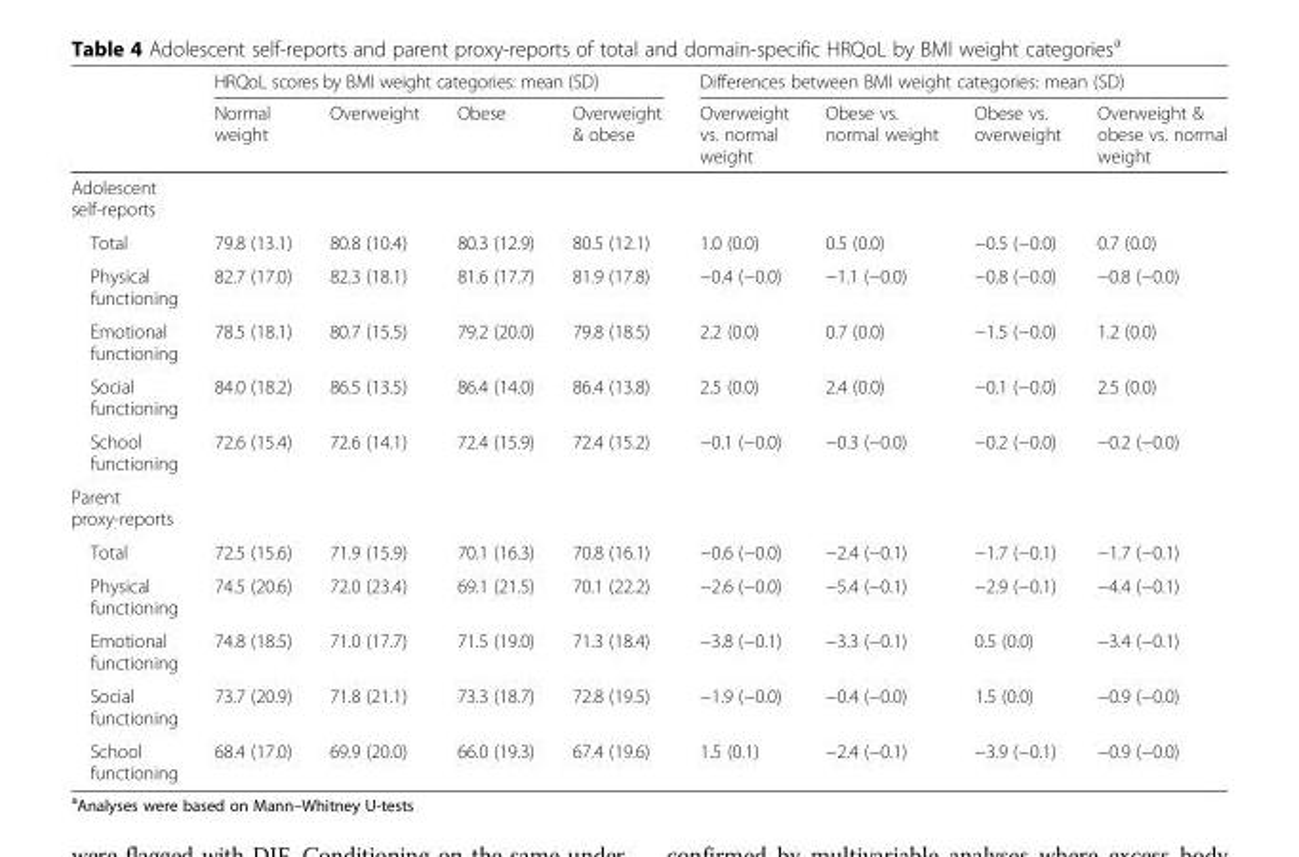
<table><thead><tr><td rowspan="2"></td><td colspan="4">HRQoL scores by BMI weight categories: mean (SD)</td><td colspan="4">Differences between BMI weight categories: mean (SD)</td></tr><tr><td>Normal weight</td><td>Overweight</td><td>Obese</td><td>Overweight &amp; obese</td><td>Overweight vs. normal weight</td><td>Obese vs. normal weight</td><td>Obese vs. overweight</td><td>Overweight &amp; obese vs. normal weight</td></tr></thead><tbody><tr><td colspan="9">Adolescent self-reports</td></tr><tr><td>Total</td><td>79.8 (13.1)</td><td>80.8 (10.4)</td><td>80.3 (12.9)</td><td>80.5 (12.1)</td><td>1.0 (0.0)</td><td>0.5 (0.0)</td><td>−0.5 (−0.0)</td><td>0.7 (0.0)</td></tr><tr><td>Physical functioning</td><td>82.7 (17.0)</td><td>82.3 (18.1)</td><td>81.6 (17.7)</td><td>81.9 (17.8)</td><td>−0.4 (−0.0)</td><td>−1.1 (−0.0)</td><td>−0.8 (−0.0)</td><td>−0.8 (−0.0)</td></tr><tr><td>Emotional functioning</td><td>78.5 (18.1)</td><td>80.7 (15.5)</td><td>79.2 (20.0)</td><td>79.8 (18.5)</td><td>2.2 (0.0)</td><td>0.7 (0.0)</td><td>−1.5 (−0.0)</td><td>1.2 (0.0)</td></tr><tr><td>Social functioning</td><td>84.0 (18.2)</td><td>86.5 (13.5)</td><td>86.4 (14.0)</td><td>86.4 (13.8)</td><td>2.5 (0.0)</td><td>2.4 (0.0)</td><td>−0.1 (−0.0)</td><td>2.5 (0.0)</td></tr><tr><td>School functioning</td><td>72.6 (15.4)</td><td>72.6 (14.1)</td><td>72.4 (15.9)</td><td>72.4 (15.2)</td><td>−0.1 (−0.0)</td><td>−0.3 (−0.0)</td><td>−0.2 (−0.0)</td><td>−0.2 (−0.0)</td></tr><tr><td colspan="9">Parent proxy-reports</td></tr><tr><td>Total</td><td>72.5 (15.6)</td><td>71.9 (15.9)</td><td>70.1 (16.3)</td><td>70.8 (16.1)</td><td>−0.6 (−0.0)</td><td>−2.4 (−0.1)</td><td>−1.7 (−0.1)</td><td>−1.7 (−0.1)</td></tr><tr><td>Physical functioning</td><td>74.5 (20.6)</td><td>72.0 (23.4)</td><td>69.1 (21.5)</td><td>70.1 (22.2)</td><td>−2.6 (−0.0)</td><td>−5.4 (−0.1)</td><td>−2.9 (−0.1)</td><td>−4.4 (−0.1)</td></tr><tr><td>Emotional functioning</td><td>74.8 (18.5)</td><td>71.0 (17.7)</td><td>71.5 (19.0)</td><td>71.3 (18.4)</td><td>−3.8 (−0.1)</td><td>−3.3 (−0.1)</td><td>0.5 (0.0)</td><td>−3.4 (−0.1)</td></tr><tr><td>Social functioning</td><td>73.7 (20.9)</td><td>71.8 (21.1)</td><td>73.3 (18.7)</td><td>72.8 (19.5)</td><td>−1.9 (−0.0)</td><td>−0.4 (−0.0)</td><td>1.5 (0.0)</td><td>−0.9 (−0.0)</td></tr><tr><td>School functioning</td><td>68.4 (17.0)</td><td>69.9 (20.0)</td><td>66.0 (19.3)</td><td>67.4 (19.6)</td><td>1.5 (0.1)</td><td>−2.4 (−0.1)</td><td>−3.9 (−0.1)</td><td>−0.9 (−0.0)</td></tr></tbody></table>